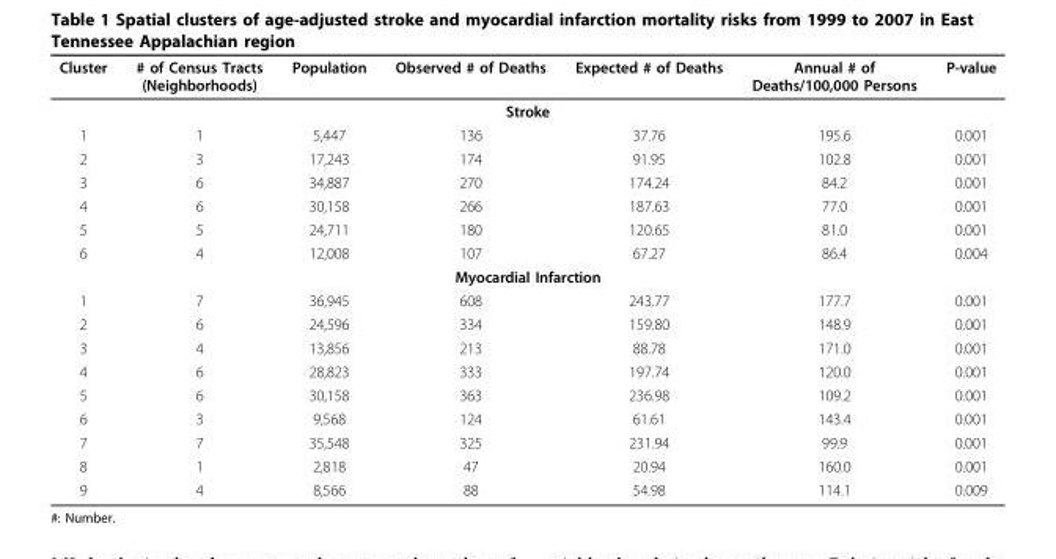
<table><thead><tr><td>Cluster</td><td># of Census Tracts (Neighborhoods)</td><td>Population</td><td>Observed # of Deaths</td><td>Expected # of Deaths</td><td>Annual # of Deaths/100,000 Persons</td><td>P-value</td></tr></thead><tbody><tr><td colspan="7">Stroke</td></tr><tr><td>1</td><td>1</td><td>5,447</td><td>136</td><td>37.76</td><td>195.6</td><td>0.001</td></tr><tr><td>2</td><td>3</td><td>17,243</td><td>174</td><td>91.95</td><td>102.8</td><td>0.001</td></tr><tr><td>3</td><td>6</td><td>34,887</td><td>270</td><td>174.24</td><td>84.2</td><td>0.001</td></tr><tr><td>4</td><td>6</td><td>30,158</td><td>266</td><td>187.63</td><td>77.0</td><td>0.001</td></tr><tr><td>5</td><td>5</td><td>24,711</td><td>180</td><td>120.65</td><td>81.0</td><td>0.001</td></tr><tr><td>6</td><td>4</td><td>12,008</td><td>107</td><td>67.27</td><td>86.4</td><td>0.004</td></tr><tr><td colspan="7">Myocardial Infarction</td></tr><tr><td>1</td><td>7</td><td>36,945</td><td>608</td><td>243.77</td><td>177.7</td><td>0.001</td></tr><tr><td>2</td><td>6</td><td>24,596</td><td>334</td><td>159.80</td><td>148.9</td><td>0.001</td></tr><tr><td>3</td><td>4</td><td>13,856</td><td>213</td><td>88.78</td><td>171.0</td><td>0.001</td></tr><tr><td>4</td><td>6</td><td>28,823</td><td>333</td><td>197.74</td><td>120.0</td><td>0.001</td></tr><tr><td>5</td><td>6</td><td>30,158</td><td>363</td><td>236.98</td><td>109.2</td><td>0.001</td></tr><tr><td>6</td><td>3</td><td>9,568</td><td>124</td><td>61.61</td><td>143.4</td><td>0.001</td></tr><tr><td>7</td><td>7</td><td>35,548</td><td>325</td><td>231.94</td><td>99.9</td><td>0.001</td></tr><tr><td>8</td><td>1</td><td>2,818</td><td>47</td><td>20.94</td><td>160.0</td><td>0.001</td></tr><tr><td>9</td><td>4</td><td>8,566</td><td>88</td><td>54.98</td><td>114.1</td><td>0.009</td></tr></tbody></table>